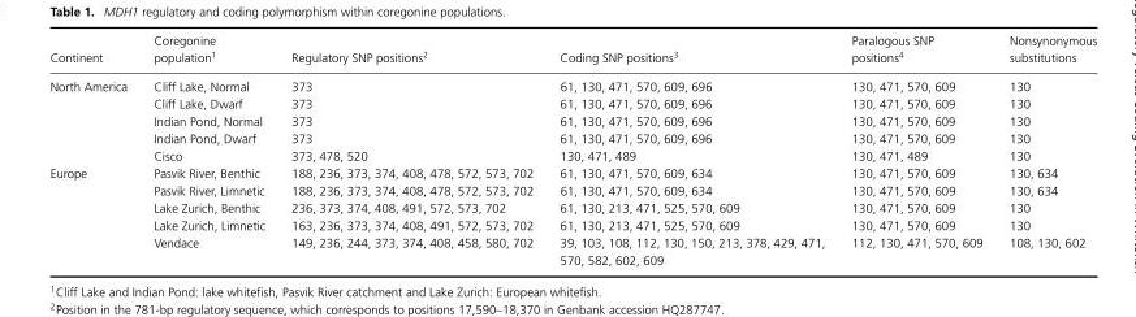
<table><thead><tr><td>Continent</td><td>population1</td><td>Regulatory SNP positions<sup>2</sup></td><td>Coding SNP positions<sup>3</sup></td><td>positions4</td><td>substitutions</td></tr></thead><tbody><tr><td rowspan="5">North America</td><td>Cliff Lake, Normal</td><td>373</td><td>61, 130, 471, 570, 609, 696</td><td>130, 471, 570, 609</td><td>130</td></tr><tr><td>Cliff Lake, Dwarf</td><td>373</td><td>61, 130, 471, 570, 609, 696</td><td>130, 471, 570, 609</td><td>130</td></tr><tr><td>Indian Pond, Normal</td><td>373</td><td>61, 130, 471, 570, 609, 696</td><td>130, 471, 570, 609</td><td>130</td></tr><tr><td>Indian Pond, Dwarf</td><td>373</td><td>61, 130, 471, 570, 609, 696</td><td>130, 471, 570, 609</td><td>130</td></tr><tr><td>Cisco</td><td>373, 478, 520</td><td>130, 471, 489</td><td>130, 471, 489</td><td>130</td></tr><tr><td rowspan="5">Europe</td><td>Pasvik River, Benthic</td><td>188, 236, 373, 374, 408, 478, 572, 573, 702</td><td>61, 130, 471, 570, 609, 634</td><td>130, 471, 570, 609</td><td>130, 634</td></tr><tr><td>Pasvik River, Limnetic</td><td>188, 236, 373, 374, 408, 478, 572, 573, 702</td><td>61, 130, 471, 570, 609, 634</td><td>130, 471, 570, 609</td><td>130, 634</td></tr><tr><td>Lake Zurich, Benthic</td><td>236, 373, 374, 408, 491, 572, 573, 702</td><td>61, 130, 213, 471, 525, 570, 609</td><td>130, 471, 570, 609</td><td>130</td></tr><tr><td>Lake Zurich, Limnetic</td><td>163, 236, 373, 374, 408, 491, 572, 573, 702</td><td>61, 130, 213, 471, 525, 570, 609</td><td>130, 471, 570, 609</td><td>130</td></tr><tr><td>Vendace</td><td>149, 236, 244, 373, 374, 408, 458, 580, 702</td><td>39, 103, 108, 112, 130, 150, 213, 378, 429, 471, 570, 582, 602, 609</td><td>112, 130, 471, 570, 609</td><td>108, 130, 602</td></tr></tbody></table>